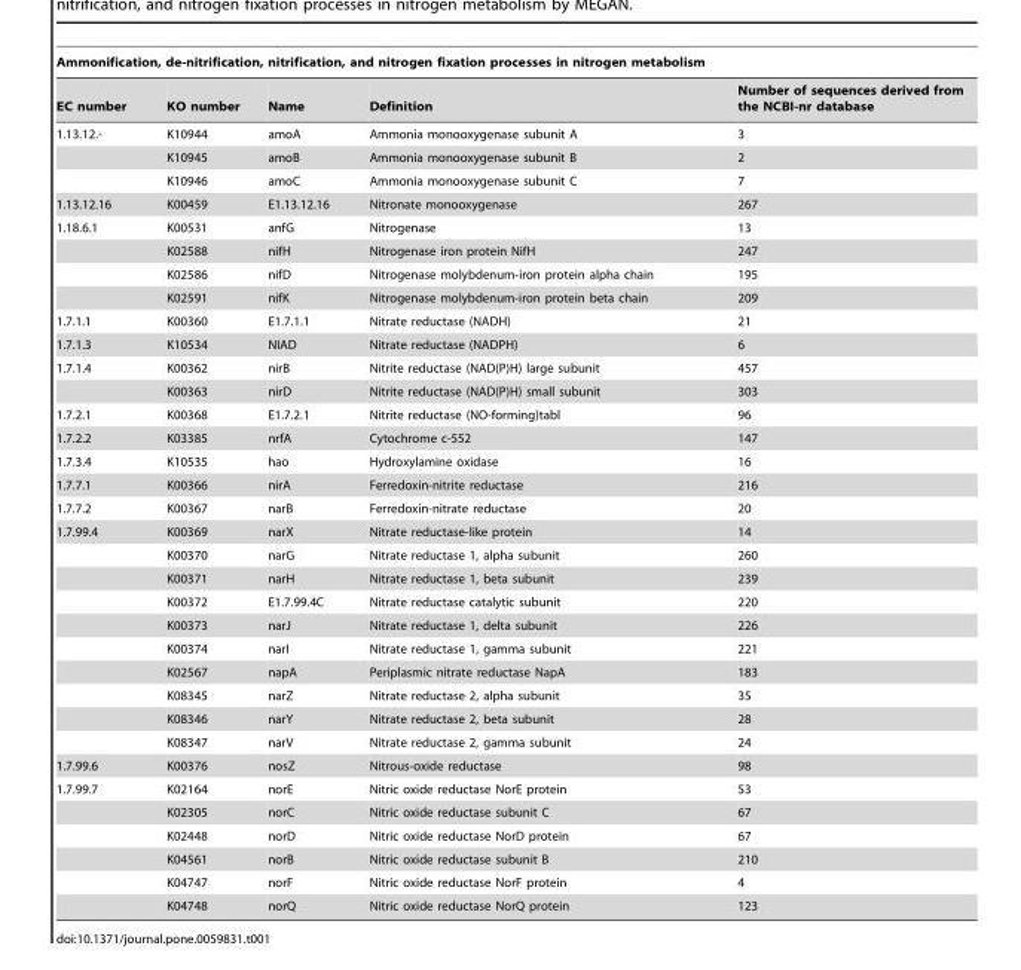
<table><thead><tr><td colspan="5">Ammonification, de-nitrification, nitrification, and nitrogen fixation processes in nitrogen metabolism</td></tr><tr><td>EC number</td><td>KO number</td><td>Name</td><td>Definition</td><td>Number of sequences derived from the NCBI-nr database</td></tr></thead><tbody><tr><td rowspan="3">1.13.12.-</td><td>K10944</td><td>amoA</td><td>Ammonia monooxygenase subunit A</td><td>3</td></tr><tr><td>K10945</td><td>amoB</td><td>Ammonia monooxygenase subunit B</td><td>2</td></tr><tr><td>K10946</td><td>amoC</td><td>Ammonia monooxygenase subunit C</td><td>7</td></tr><tr><td>1.13.12.16</td><td>K00459</td><td>E1.13.12.16</td><td>Nitronate monooxygenase</td><td>267</td></tr><tr><td rowspan="4">1.18.6.1</td><td>K00531</td><td>anfG</td><td>Nitrogenase</td><td>13</td></tr><tr><td>K02588</td><td>nifH</td><td>Nitrogenase iron protein NifH</td><td>247</td></tr><tr><td>K02586</td><td>nifD</td><td>Nitrogenase molybdenum-iron protein alpha chain</td><td>195</td></tr><tr><td>K02591</td><td>nifK</td><td>Nitrogenase molybdenum-iron protein beta chain</td><td>209</td></tr><tr><td>1.7.1.1</td><td>K00360</td><td>E1.7.1.1</td><td>Nitrate reductase (NADH)</td><td>21</td></tr><tr><td>1.7.1.3</td><td>K10534</td><td>NIAD</td><td>Nitrate reductase (NADPH)</td><td>6</td></tr><tr><td rowspan="2">1.7.1.4</td><td>K00362</td><td>nirB</td><td>Nitrite reductase (NAD(P)H) large subunit</td><td>457</td></tr><tr><td>K00363</td><td>nirD</td><td>Nitrite reductase (NAD(P)H) small subunit</td><td>303</td></tr><tr><td>1.7.2.1</td><td>K00368</td><td>E1.7.2.1</td><td>Nitrite reductase (NO-forming)tabl</td><td>96</td></tr><tr><td>1.7.2.2</td><td>K03385</td><td>nrfA</td><td>Cytochrome c-552</td><td>147</td></tr><tr><td>1.7.3.4</td><td>K10535</td><td>hao</td><td>Hydroxylamine oxidase</td><td>16</td></tr><tr><td>1.7.7.1</td><td>K00366</td><td>nirA</td><td>Ferredoxin-nitrite reductase</td><td>216</td></tr><tr><td>1.7.7.2</td><td>K00367</td><td>narB</td><td>Ferredoxin-nitrate reductase</td><td>20</td></tr><tr><td rowspan="10">1.7.99.4</td><td>K00369</td><td>narX</td><td>Nitrate reductase-like protein</td><td>14</td></tr><tr><td>K00370</td><td>narG</td><td>Nitrate reductase 1, alpha subunit</td><td>260</td></tr><tr><td>K00371</td><td>narH</td><td>Nitrate reductase 1, beta subunit</td><td>239</td></tr><tr><td>K00372</td><td>E1.7.99.4C</td><td>Nitrate reductase catalytic subunit</td><td>220</td></tr><tr><td>K00373</td><td>narJ</td><td>Nitrate reductase 1, delta subunit</td><td>226</td></tr><tr><td>K00374</td><td>narI</td><td>Nitrate reductase 1, gamma subunit</td><td>221</td></tr><tr><td>K02567</td><td>napA</td><td>Periplasmic nitrate reductase NapA</td><td>183</td></tr><tr><td>K08345</td><td>narZ</td><td>Nitrate reductase 2, alpha subunit</td><td>35</td></tr><tr><td>K08346</td><td>narY</td><td>Nitrate reductase 2, beta subunit</td><td>28</td></tr><tr><td>K08347</td><td>narV</td><td>Nitrate reductase 2, gamma subunit</td><td>24</td></tr><tr><td>1.7.99.6</td><td>K00376</td><td>nosZ</td><td>Nitrous-oxide reductase</td><td>98</td></tr><tr><td rowspan="6">1.7.99.7</td><td>K02164</td><td>norE</td><td>Nitric oxide reductase NorE protein</td><td>53</td></tr><tr><td>K02305</td><td>norC</td><td>Nitric oxide reductase subunit C</td><td>67</td></tr><tr><td>K02448</td><td>norD</td><td>Nitric oxide reductase NorD protein</td><td>67</td></tr><tr><td>K04561</td><td>norB</td><td>Nitric oxide reductase subunit B</td><td>210</td></tr><tr><td>K04747</td><td>norF</td><td>Nitric oxide reductase NorF protein</td><td>4</td></tr><tr><td>K04748</td><td>norQ</td><td>Nitric oxide reductase NorQ protein</td><td>123</td></tr></tbody></table>